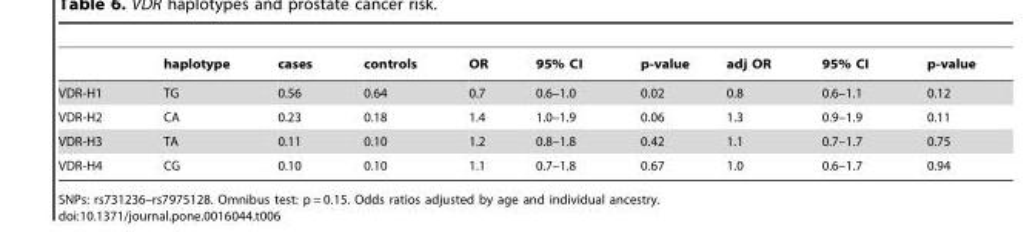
<table><thead><tr><td></td><td>haplotype</td><td>cases</td><td>controls</td><td>OR</td><td>95% CI</td><td>p-value</td><td>adj OR</td><td>95% CI</td><td>p-value</td></tr></thead><tbody><tr><td>VDR-H1</td><td>TG</td><td>0.56</td><td>0.64</td><td>0.7</td><td>0.6–1.0</td><td>0.02</td><td>0.8</td><td>0.6–1.1</td><td>0.12</td></tr><tr><td>VDR-H2</td><td>CA</td><td>0.23</td><td>0.18</td><td>1.4</td><td>1.0–1.9</td><td>0.06</td><td>1.3</td><td>0.9–1.9</td><td>0.11</td></tr><tr><td>VDR-H3</td><td>TA</td><td>0.11</td><td>0.10</td><td>1.2</td><td>0.8–1.8</td><td>0.42</td><td>1.1</td><td>0.7–1.7</td><td>0.75</td></tr><tr><td>VDR-H4</td><td>CG</td><td>0.10</td><td>0.10</td><td>1.1</td><td>0.7–1.8</td><td>0.67</td><td>1.0</td><td>0.6–1.7</td><td>0.94</td></tr></tbody></table>